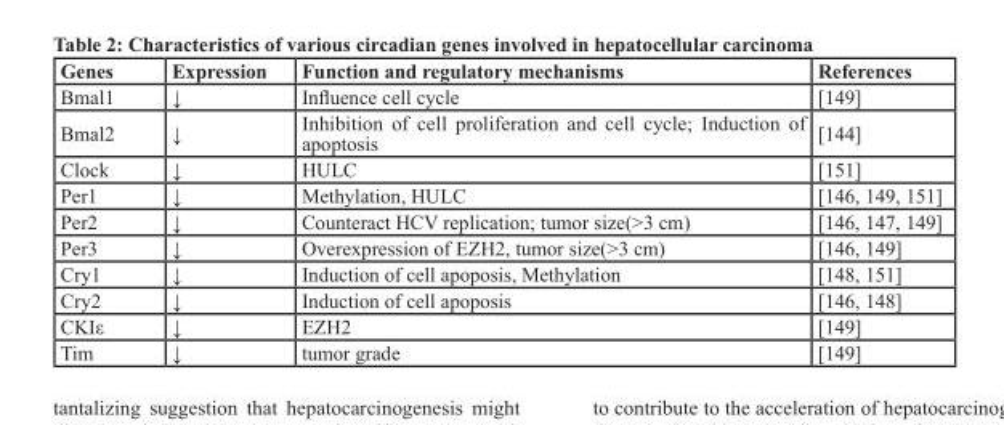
<table><thead><tr><td>Genes</td><td>Expression</td><td>Function and regulatory mechanisms</td><td>References</td></tr></thead><tbody><tr><td>Bmal1</td><td>↓</td><td>Influence cell cycle</td><td>[149]</td></tr><tr><td>Bmal2</td><td>↓</td><td>Inhibition of cell proliferation and cell cycle; Induction of apoptosis</td><td>[144]</td></tr><tr><td>Clock</td><td>↓</td><td>HULC</td><td>[151]</td></tr><tr><td>Per1</td><td>↓</td><td>Methylation, HULC</td><td>[146, 149, 151]</td></tr><tr><td>Per2</td><td>↓</td><td>Counteract HCV replication; tumor size(&gt;3 cm)</td><td>[146, 147, 149]</td></tr><tr><td>Per3</td><td>↓</td><td>Overexpression of EZH2, tumor size(&gt;3 cm)</td><td>[146, 149]</td></tr><tr><td>Cry1</td><td>↓</td><td>Induction of cell apoposis, Methylation</td><td>[148, 151]</td></tr><tr><td>Cry2</td><td>↓</td><td>Induction of cell apoposis</td><td>[146, 148]</td></tr><tr><td>CKIε</td><td>↓</td><td>EZH2</td><td>[149]</td></tr><tr><td>Tim</td><td>↓</td><td>tumor grade</td><td>[149]</td></tr></tbody></table>